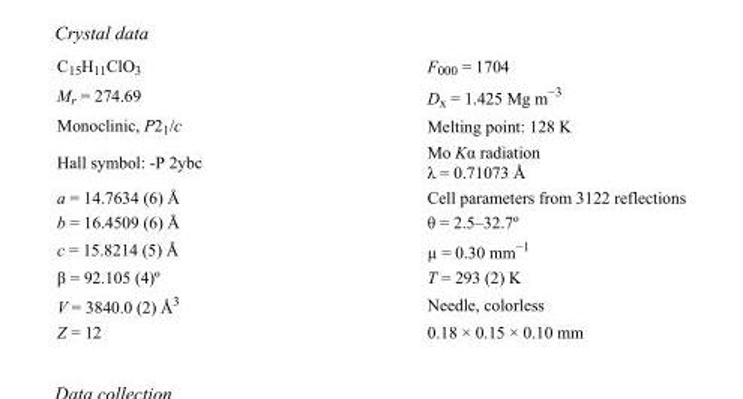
<table><tbody><tr><td>C<sub>15</sub>H<sub>11</sub>ClO<sub>3</sub></td><td>F<sub>000</sub> = 1704</td></tr><tr><td>M<sub>r</sub> = 274.69</td><td>D<sub>x</sub> = 1.425 Mg m<sup>−3</sup></td></tr><tr><td>Monoclinic, P2<sub>1</sub>/c</td><td>Melting point: 128 K</td></tr><tr><td>Hall symbol: -P 2ybc</td><td>Mo Kα radiation λ = 0.71073 Å</td></tr><tr><td>a = 14.7634 (6) Å</td><td>Cell parameters from 3122 reflections</td></tr><tr><td>b = 16.4509 (6) Å</td><td>θ = 2.5–32.7º</td></tr><tr><td>c = 15.8214 (5) Å</td><td>µ = 0.30 mm<sup>−1</sup></td></tr><tr><td>β = 92.105 (4)º</td><td>T = 293 (2) K</td></tr><tr><td>V = 3840.0 (2) Å<sup>3</sup></td><td>Needle, colorless</td></tr><tr><td>Z = 12</td><td>0.18 × 0.15 × 0.10 mm</td></tr></tbody></table>